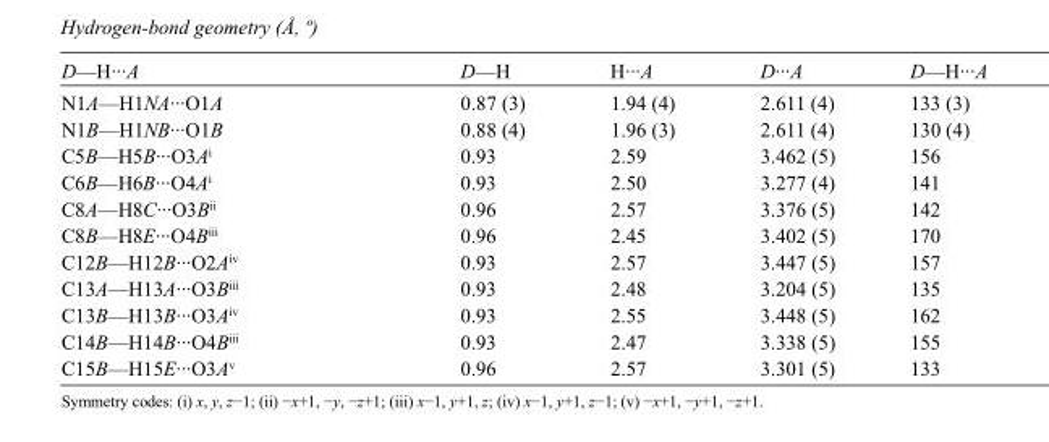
<table><tbody><tr><td>D—H···A</td><td>D—H</td><td>H···A</td><td>D···A</td><td>D—H···A</td></tr><tr><td>N1A—H1NA···O1A</td><td>0.87 (3)</td><td>1.94 (4)</td><td>2.611 (4)</td><td>133 (3)</td></tr><tr><td>N1B—H1NB···O1B</td><td>0.88 (4)</td><td>1.96 (3)</td><td>2.611 (4)</td><td>130 (4)</td></tr><tr><td>C5B—H5B···O3A<sup>i</sup></td><td>0.93</td><td>2.59</td><td>3.462 (5)</td><td>156</td></tr><tr><td>C6B—H6B···O4A<sup>i</sup></td><td>0.93</td><td>2.50</td><td>3.277 (4)</td><td>141</td></tr><tr><td>C8A—H8C···O3B<sup>ii</sup></td><td>0.96</td><td>2.57</td><td>3.376 (5)</td><td>142</td></tr><tr><td>C8B—H8E···O4B<sup>iii</sup></td><td>0.96</td><td>2.45</td><td>3.402 (5)</td><td>170</td></tr><tr><td>C12B—H12B···O2A<sup>iv</sup></td><td>0.93</td><td>2.57</td><td>3.447 (5)</td><td>157</td></tr><tr><td>C13A—H13A···O3B<sup>iii</sup></td><td>0.93</td><td>2.48</td><td>3.204 (5)</td><td>135</td></tr><tr><td>C13B—H13B···O3A<sup>iv</sup></td><td>0.93</td><td>2.55</td><td>3.448 (5)</td><td>162</td></tr><tr><td>C14B—H14B···O4B<sup>iii</sup></td><td>0.93</td><td>2.47</td><td>3.338 (5)</td><td>155</td></tr><tr><td>C15B—H15E···O3A<sup>v</sup></td><td>0.96</td><td>2.57</td><td>3.301 (5)</td><td>133</td></tr></tbody></table>